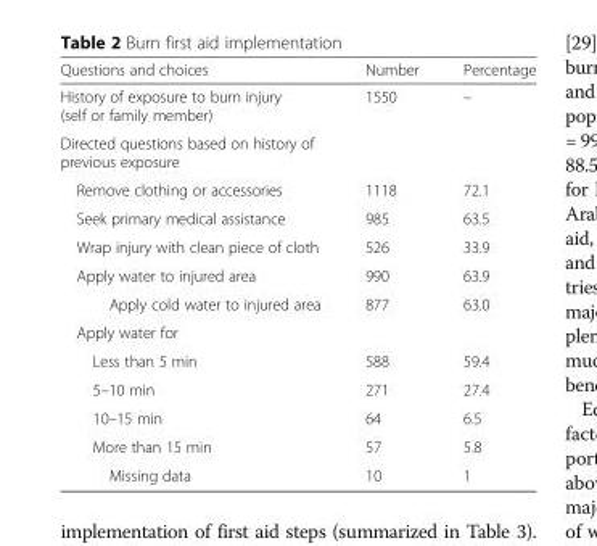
<table><thead><tr><td>Questions and choices</td><td>Number</td><td>Percentage</td></tr></thead><tbody><tr><td>History of exposure to burn injury (self or family member)</td><td>1550</td><td>–</td></tr><tr><td colspan="3">Directed questions based on history of previous exposure</td></tr><tr><td>Remove clothing or accessories</td><td>1118</td><td>72.1</td></tr><tr><td>Seek primary medical assistance</td><td>985</td><td>63.5</td></tr><tr><td>Wrap injury with clean piece of cloth</td><td>526</td><td>33.9</td></tr><tr><td>Apply water to injured area</td><td>990</td><td>63.9</td></tr><tr><td>Apply cold water to injured area</td><td>877</td><td>63.0</td></tr><tr><td colspan="3">Apply water for</td></tr><tr><td>Less than 5 min</td><td>588</td><td>59.4</td></tr><tr><td>5–10 min</td><td>271</td><td>27.4</td></tr><tr><td>10–15 min</td><td>64</td><td>6.5</td></tr><tr><td>More than 15 min</td><td>57</td><td>5.8</td></tr><tr><td>Missing data</td><td>10</td><td>1</td></tr></tbody></table>